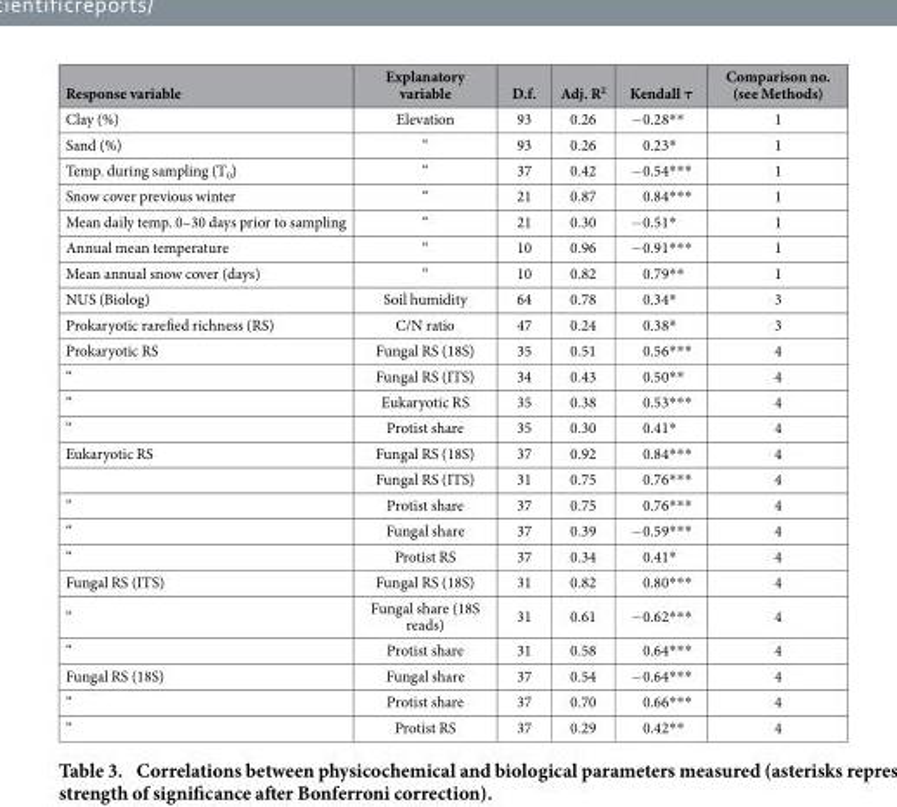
<table><thead><tr><td>Response variable</td><td>Explanatory variable</td><td>D.f.</td><td>Adj. R<sup>2</sup></td><td>Kendall τ</td><td>Comparison no. (see Methods)</td></tr></thead><tbody><tr><td>Clay (%)</td><td>Elevation</td><td>93</td><td>0.26</td><td>− 0.28* *</td><td>1</td></tr><tr><td>Sand (%)</td><td>“</td><td>93</td><td>0.26</td><td>0.23*</td><td>1</td></tr><tr><td>Temp. during sampling (T<sub>0</sub>)</td><td>“</td><td>37</td><td>0.42</td><td>− 0.54* * *</td><td>1</td></tr><tr><td>Snow cover previous winter</td><td>“</td><td>21</td><td>0.87</td><td>0.84* * *</td><td>1</td></tr><tr><td>Mean daily temp. 0–30 days prior to sampling</td><td>“</td><td>21</td><td>0.30</td><td>− 0.51*</td><td>1</td></tr><tr><td>Annual mean temperature</td><td>“</td><td>10</td><td>0.96</td><td>− 0.91* * *</td><td>1</td></tr><tr><td>Mean annual snow cover (days)</td><td>“</td><td>10</td><td>0.82</td><td>0.79* *</td><td>1</td></tr><tr><td>NUS (Biolog)</td><td>Soil humidity</td><td>64</td><td>0.78</td><td>0.34*</td><td>3</td></tr><tr><td>Prokaryotic rarefied richness (RS)</td><td>C/N ratio</td><td>47</td><td>0.24</td><td>0.38*</td><td>3</td></tr><tr><td>Prokaryotic RS</td><td>Fungal RS (18S)</td><td>35</td><td>0.51</td><td>0.56* * *</td><td>4</td></tr><tr><td>“</td><td>Fungal RS (ITS)</td><td>34</td><td>0.43</td><td>0.50* *</td><td>4</td></tr><tr><td>“</td><td>Eukaryotic RS</td><td>35</td><td>0.38</td><td>0.53* * *</td><td>4</td></tr><tr><td>“</td><td>Protist share</td><td>35</td><td>0.30</td><td>0.41*</td><td>4</td></tr><tr><td rowspan="2">Eukaryotic RS</td><td>Fungal RS (18S)</td><td>37</td><td>0.92</td><td>0.84* * *</td><td>4</td></tr><tr><td>Fungal RS (ITS)</td><td>31</td><td>0.75</td><td>0.76* * *</td><td>4</td></tr><tr><td>“</td><td>Protist share</td><td>37</td><td>0.75</td><td>0.76* * *</td><td>4</td></tr><tr><td>“</td><td>Fungal share</td><td>37</td><td>0.39</td><td>− 0.59* * *</td><td>4</td></tr><tr><td>“</td><td>Protist RS</td><td>37</td><td>0.34</td><td>0.41*</td><td>4</td></tr><tr><td>Fungal RS (ITS)</td><td>Fungal RS (18S)</td><td>31</td><td>0.82</td><td>0.80* * *</td><td>4</td></tr><tr><td>“</td><td>Fungal share (18S reads)</td><td>31</td><td>0.61</td><td>− 0.62* * *</td><td>4</td></tr><tr><td>“</td><td>Protist share</td><td>31</td><td>0.58</td><td>0.64* * *</td><td>4</td></tr><tr><td>Fungal RS (18S)</td><td>Fungal share</td><td>37</td><td>0.54</td><td>− 0.64* * *</td><td>4</td></tr><tr><td>“</td><td>Protist share</td><td>37</td><td>0.70</td><td>0.66* * *</td><td>4</td></tr><tr><td>“</td><td>Protist RS</td><td>37</td><td>0.29</td><td>0.42* *</td><td>4</td></tr></tbody></table>